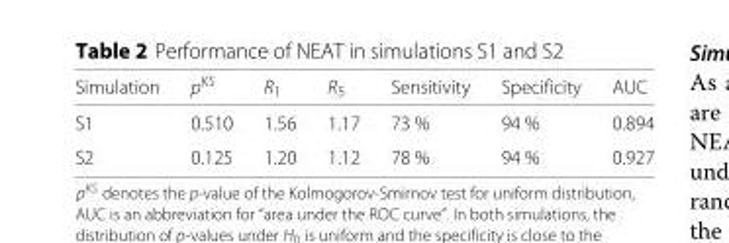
<table><thead><tr><td>Simulation</td><td>p<sup>KS</sup></td><td>R<sub>1</sub></td><td>R<sub>5</sub></td><td>Sensitivity</td><td>Specificity</td><td>AUC</td></tr></thead><tbody><tr><td>S1</td><td>0.510</td><td>1.56</td><td>1.17</td><td>73 %</td><td>94 %</td><td>0.894</td></tr><tr><td>S2</td><td>0.125</td><td>1.20</td><td>1.12</td><td>78 %</td><td>94 %</td><td>0.927</td></tr></tbody></table>